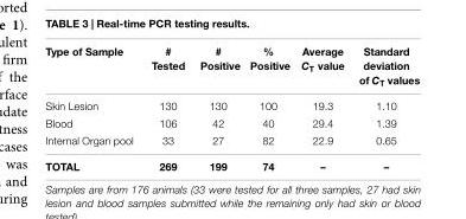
<table><thead><tr><td>Type of Sample</td><td># Tested</td><td># Positive</td><td>% Positive</td><td>Average C<sub>T</sub> value</td><td>Standard deviation of C<sub>T</sub> values</td></tr></thead><tbody><tr><td>Skin Lesion</td><td>130</td><td>130</td><td>100</td><td>19.3</td><td>1.10</td></tr><tr><td>Blood</td><td>106</td><td>42</td><td>40</td><td>29.4</td><td>1.39</td></tr><tr><td>Internal Organ pool</td><td>33</td><td>27</td><td>82</td><td>22.9</td><td>0.65</td></tr><tr><td>TOTAL</td><td>269</td><td>199</td><td>74</td><td>–</td><td>–</td></tr></tbody></table>